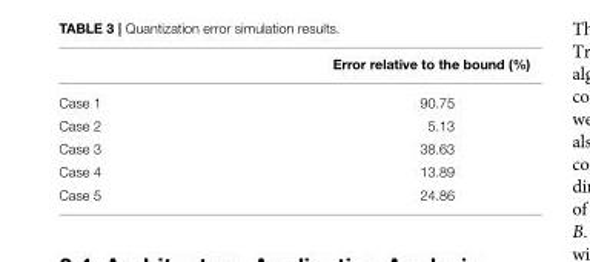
<table><thead><tr><td></td><td>Error relative to the bound (%)</td></tr></thead><tbody><tr><td>Case 1</td><td>90.75</td></tr><tr><td>Case 2</td><td>5.13</td></tr><tr><td>Case 3</td><td>38.63</td></tr><tr><td>Case 4</td><td>13.89</td></tr><tr><td>Case 5</td><td>24.86</td></tr></tbody></table>